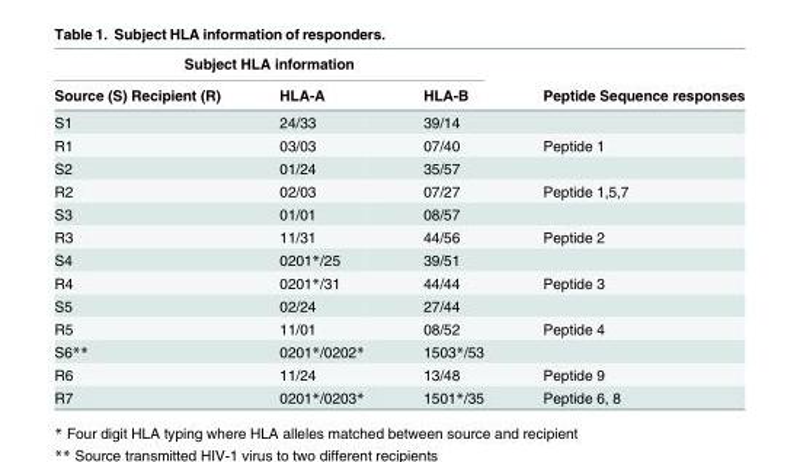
<table><thead><tr><td colspan="3">Subject HLA information</td><td rowspan="2">Peptide Sequence responses</td></tr><tr><td>Source (S) Recipient (R)</td><td>HLA-A</td><td>HLA-B</td></tr></thead><tbody><tr><td>S1</td><td>24/33</td><td>39/14</td><td></td></tr><tr><td>R1</td><td>03/03</td><td>07/40</td><td>Peptide 1</td></tr><tr><td>S2</td><td>01/24</td><td>35/57</td><td></td></tr><tr><td>R2</td><td>02/03</td><td>07/27</td><td>Peptide 1,5,7</td></tr><tr><td>S3</td><td>01/01</td><td>08/57</td><td></td></tr><tr><td>R3</td><td>11/31</td><td>44/56</td><td>Peptide 2</td></tr><tr><td>S4</td><td>0201*/25</td><td>39/51</td><td></td></tr><tr><td>R4</td><td>0201*/31</td><td>44/44</td><td>Peptide 3</td></tr><tr><td>S5</td><td>02/24</td><td>27/44</td><td></td></tr><tr><td>R5</td><td>11/01</td><td>08/52</td><td>Peptide 4</td></tr><tr><td>S6**</td><td>0201*/0202*</td><td>1503*/53</td><td></td></tr><tr><td>R6</td><td>11/24</td><td>13/48</td><td>Peptide 9</td></tr><tr><td>R7</td><td>0201*/0203*</td><td>1501*/35</td><td>Peptide 6, 8</td></tr></tbody></table>